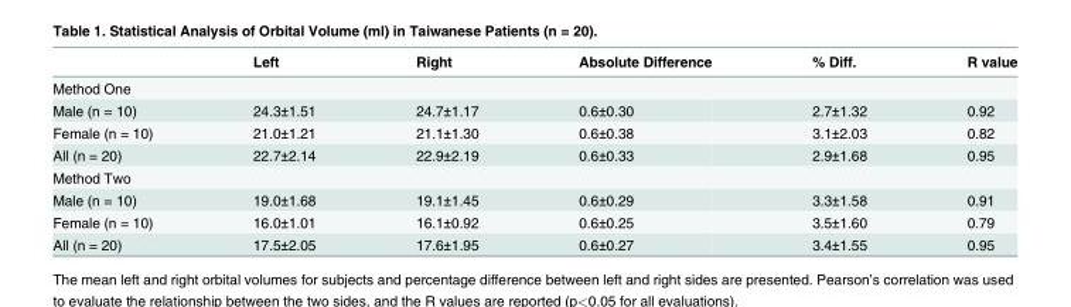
<table><thead><tr><td></td><td>Left</td><td>Right</td><td>Absolute Difference</td><td>% Diff.</td><td>R value</td></tr></thead><tbody><tr><td colspan="6">Method One</td></tr><tr><td>Male (n = 10)</td><td>24.3±1.51</td><td>24.7±1.17</td><td>0.6±0.30</td><td>2.7±1.32</td><td>0.92</td></tr><tr><td>Female (n = 10)</td><td>21.0±1.21</td><td>21.1±1.30</td><td>0.6±0.38</td><td>3.1±2.03</td><td>0.82</td></tr><tr><td>All (n = 20)</td><td>22.7±2.14</td><td>22.9±2.19</td><td>0.6±0.33</td><td>2.9±1.68</td><td>0.95</td></tr><tr><td colspan="6">Method Two</td></tr><tr><td>Male (n = 10)</td><td>19.0±1.68</td><td>19.1±1.45</td><td>0.6±0.29</td><td>3.3±1.58</td><td>0.91</td></tr><tr><td>Female (n = 10)</td><td>16.0±1.01</td><td>16.1±0.92</td><td>0.6±0.25</td><td>3.5±1.60</td><td>0.79</td></tr><tr><td>All (n = 20)</td><td>17.5±2.05</td><td>17.6±1.95</td><td>0.6±0.27</td><td>3.4±1.55</td><td>0.95</td></tr></tbody></table>